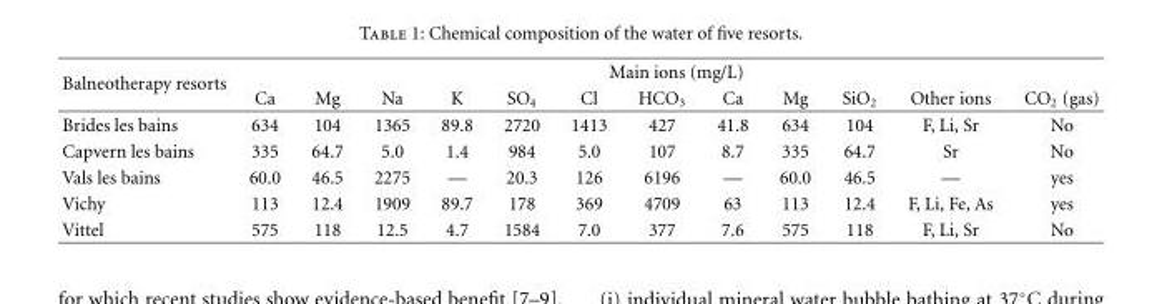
<table><thead><tr><td rowspan="2">Balneotherapy resorts</td><td colspan="12">Main ions (mg/L)</td></tr><tr><td>Ca</td><td>Mg</td><td>Na</td><td>K</td><td>SO<sub>4</sub></td><td>Cl</td><td>HCO<sub>3</sub></td><td>Ca</td><td>Mg</td><td>SiO<sub>2</sub></td><td>Other ions</td><td>CO<sub>2</sub> (gas)</td></tr></thead><tbody><tr><td>Brides les bains</td><td>634</td><td>104</td><td>1365</td><td>89.8</td><td>2720</td><td>1413</td><td>427</td><td>41.8</td><td>634</td><td>104</td><td>F, Li, Sr</td><td>No</td></tr><tr><td>Capvern les bains</td><td>335</td><td>64.7</td><td>5.0</td><td>1.4</td><td>984</td><td>5.0</td><td>107</td><td>8.7</td><td>335</td><td>64.7</td><td>Sr</td><td>No</td></tr><tr><td>Vals les bains</td><td>60.0</td><td>46.5</td><td>2275</td><td>—</td><td>20.3</td><td>126</td><td>6196</td><td>—</td><td>60.0</td><td>46.5</td><td>—</td><td>yes</td></tr><tr><td>Vichy</td><td>113</td><td>12.4</td><td>1909</td><td>89.7</td><td>178</td><td>369</td><td>4709</td><td>63</td><td>113</td><td>12.4</td><td>F, Li, Fe, As</td><td>yes</td></tr><tr><td>Vittel</td><td>575</td><td>118</td><td>12.5</td><td>4.7</td><td>1584</td><td>7.0</td><td>377</td><td>7.6</td><td>575</td><td>118</td><td>F, Li, Sr</td><td>No</td></tr></tbody></table>